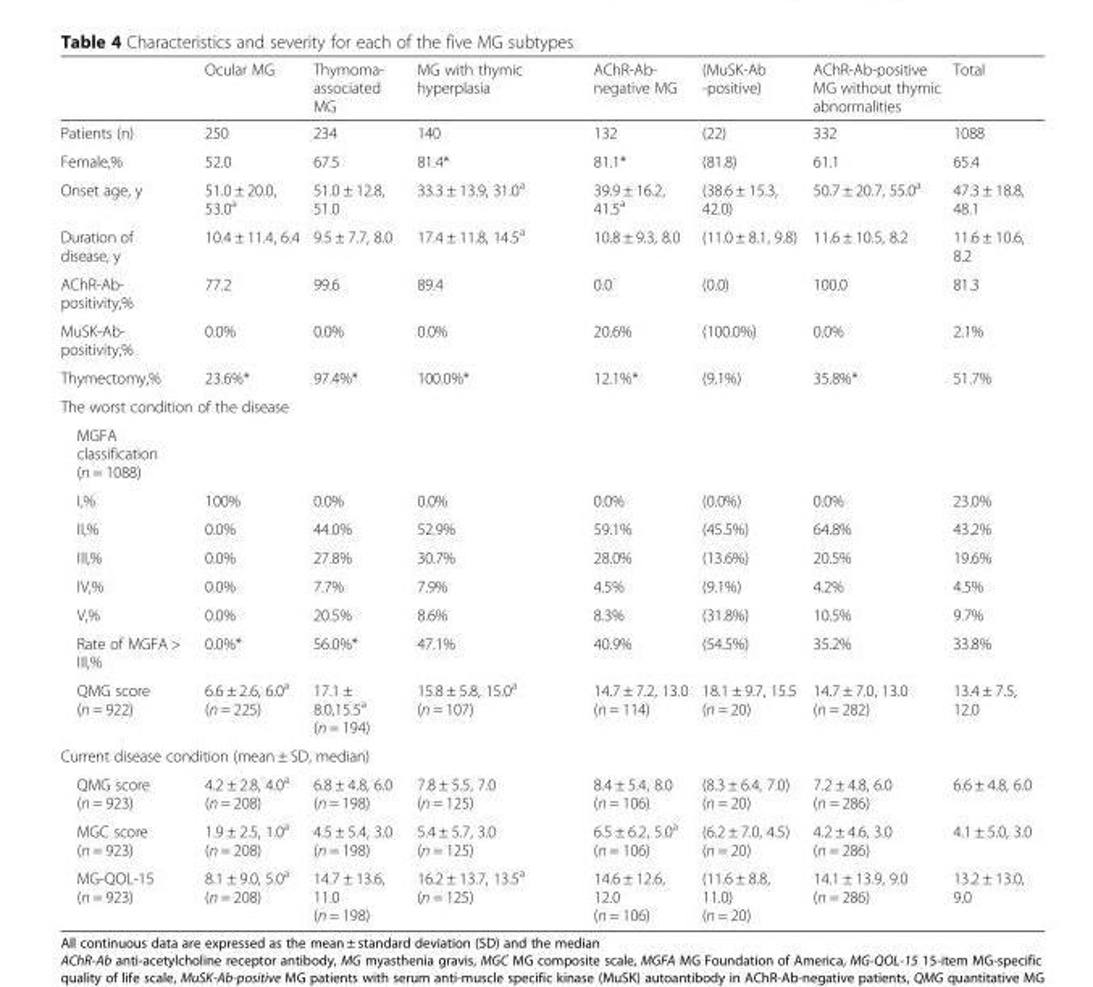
<table><thead><tr><td></td><td>Ocular MG</td><td>Thymoma- associated MG</td><td>MG with thymic hyperplasia</td><td>AChR-Ab- negative MG</td><td>(MuSK-Ab -positive)</td><td>AChR-Ab-positive MG without thymic abnormalities</td><td>Total</td></tr></thead><tbody><tr><td>Patients (n)</td><td>250</td><td>234</td><td>140</td><td>132</td><td>(22)</td><td>332</td><td>1088</td></tr><tr><td>Female,%</td><td>52.0</td><td>67.5</td><td>81.4*</td><td>81.1*</td><td>(81.8)</td><td>61.1</td><td>65.4</td></tr><tr><td>Onset age, y</td><td>51.0 ± 20.0, 53.0<sup>a</sup></td><td>51.0 ± 12.8, 51.0</td><td>33.3 ± 13.9, 31.0<sup>a</sup></td><td>39.9 ± 16.2, 41.5<sup>a</sup></td><td>(38.6 ± 15.3, 42.0)</td><td>50.7 ± 20.7, 55.0<sup>a</sup></td><td>47.3 ± 18.8, 48.1</td></tr><tr><td>Duration of disease, y</td><td>10.4 ± 11.4, 6.4</td><td>9.5 ± 7.7, 8.0</td><td>17.4 ± 11.8, 14.5<sup>a</sup></td><td>10.8 ± 9.3, 8.0</td><td>(11.0 ± 8.1, 9.8)</td><td>11.6 ± 10.5, 8.2</td><td>11.6 ± 10.6, 8.2</td></tr><tr><td>AChR-Ab- positivity,%</td><td>77.2</td><td>99.6</td><td>89.4</td><td>0.0</td><td>(0.0)</td><td>100.0</td><td>81.3</td></tr><tr><td>MuSK-Ab- positivity,%</td><td>0.0%</td><td>0.0%</td><td>0.0%</td><td>20.6%</td><td>(100.0%)</td><td>0.0%</td><td>2.1%</td></tr><tr><td>Thymectomy,%</td><td>23.6%*</td><td>97.4%*</td><td>100.0%*</td><td>12.1%*</td><td>(9.1%)</td><td>35.8%*</td><td>51.7%</td></tr><tr><td colspan="8">The worst condition of the disease</td></tr><tr><td colspan="8">MGFA classification (n = 1088)</td></tr><tr><td>I,%</td><td>100%</td><td>0.0%</td><td>0.0%</td><td>0.0%</td><td>(0.0%)</td><td>0.0%</td><td>23.0%</td></tr><tr><td>II,%</td><td>0.0%</td><td>44.0%</td><td>52.9%</td><td>59.1%</td><td>(45.5%)</td><td>64.8%</td><td>43.2%</td></tr><tr><td>III,%</td><td>0.0%</td><td>27.8%</td><td>30.7%</td><td>28.0%</td><td>(13.6%)</td><td>20.5%</td><td>19.6%</td></tr><tr><td>IV,%</td><td>0.0%</td><td>7.7%</td><td>7.9%</td><td>4.5%</td><td>(9.1%)</td><td>4.2%</td><td>4.5%</td></tr><tr><td>V,%</td><td>0.0%</td><td>20.5%</td><td>8.6%</td><td>8.3%</td><td>(31.8%)</td><td>10.5%</td><td>9.7%</td></tr><tr><td>Rate of MGFA &gt; III,%</td><td>0.0%*</td><td>56.0%*</td><td>47.1%</td><td>40.9%</td><td>(54.5%)</td><td>35.2%</td><td>33.8%</td></tr><tr><td>QMG score (n = 922)</td><td>6.6 ± 2.6, 6.0<sup>a</sup> (n = 225)</td><td>17.1 ± 8.0,15.5<sup>a</sup> (n = 194)</td><td>15.8 ± 5.8, 15.0<sup>a</sup> (n = 107)</td><td>14.7 ± 7.2, 13.0 (n = 114)</td><td>18.1 ± 9.7, 15.5 (n = 20)</td><td>14.7 ± 7.0, 13.0 (n = 282)</td><td>13.4 ± 7.5, 12.0</td></tr><tr><td colspan="8">Current disease condition (mean ± SD, median)</td></tr><tr><td>QMG score (n = 923)</td><td>4.2 ± 2.8, 4.0<sup>a</sup> (n = 208)</td><td>6.8 ± 4.8, 6.0 (n = 198)</td><td>7.8 ± 5.5, 7.0 (n = 125)</td><td>8.4 ± 5.4, 8.0 (n = 106)</td><td>(8.3 ± 6.4, 7.0) (n = 20)</td><td>7.2 ± 4.8, 6.0 (n = 286)</td><td>6.6 ± 4.8, 6.0</td></tr><tr><td>MGC score (n = 923)</td><td>1.9 ± 2.5, 1.0<sup>a</sup> (n = 208)</td><td>4.5 ± 5.4, 3.0 (n = 198)</td><td>5.4 ± 5.7, 3.0 (n = 125)</td><td>6.5 ± 6.2, 5.0<sup>a</sup> (n = 106)</td><td>(6.2 ± 7.0, 4.5) (n = 20)</td><td>4.2 ± 4.6, 3.0 (n = 286)</td><td>4.1 ± 5.0, 3.0</td></tr><tr><td>MG-QOL-15 (n = 923)</td><td>8.1 ± 9.0, 5.0<sup>a</sup> (n = 208)</td><td>14.7 ± 13.6, 11.0 (n = 198)</td><td>16.2 ± 13.7, 13.5<sup>a</sup> (n = 125)</td><td>14.6 ± 12.6, 12.0 (n = 106)</td><td>(11.6 ± 8.8, 11.0) (n = 20)</td><td>14.1 ± 13.9, 9.0 (n = 286)</td><td>13.2 ± 13.0, 9.0</td></tr></tbody></table>